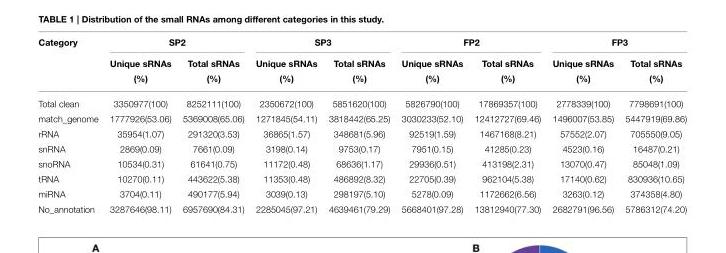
<table><thead><tr><td rowspan="2">Category</td><td colspan="2">SP2</td><td colspan="2">SP3</td><td colspan="2">FP2</td><td colspan="2">FP3</td></tr><tr><td>Unique sRNAs (%)</td><td>Total sRNAs (%)</td><td>Unique sRNAs (%)</td><td>Total sRNAs (%)</td><td>Unique sRNAs (%)</td><td>Total sRNAs (%)</td><td>Unique sRNAs (%)</td><td>Total sRNAs (%)</td></tr></thead><tbody><tr><td>Total clean</td><td>3350977(100)</td><td>8252111(100)</td><td>2350672(100)</td><td>5851620(100)</td><td>5826790(100)</td><td>17869357(100)</td><td>2778339(100)</td><td>7798691(100)</td></tr><tr><td>match_genome</td><td>1777926(53.06)</td><td>5369008(65.06)</td><td>1271845(54.11)</td><td>3818442(65.25)</td><td>3030233(52.10)</td><td>12412727(69.46)</td><td>1496007(53.85)</td><td>5447919(69.86)</td></tr><tr><td>rRNA</td><td>35954(1.07)</td><td>291320(3.53)</td><td>36865(1.57)</td><td>348681(5.96)</td><td>92519(1.59)</td><td>1467168(8.21)</td><td>57552(2.07)</td><td>705550(9.05)</td></tr><tr><td>snRNA</td><td>2869(0.09)</td><td>7661(0.09)</td><td>3198(0.14)</td><td>9753(0.17)</td><td>7951(0.15)</td><td>41285(0.23)</td><td>4523(0.16)</td><td>16487(0.21)</td></tr><tr><td>snoRNA</td><td>10534(0.31)</td><td>61641(0.75)</td><td>11172(0.48)</td><td>68636(1.17)</td><td>29936(0.51)</td><td>413198(2.31)</td><td>13070(0.47)</td><td>85048(1.09)</td></tr><tr><td>tRNA</td><td>10270(0.11)</td><td>443622(5.38)</td><td>11353(0.48)</td><td>486892(8.32)</td><td>22705(0.39)</td><td>962104(5.38)</td><td>17140(0.62)</td><td>830936(10.65)</td></tr><tr><td>miRNA</td><td>3704(0.11)</td><td>490177(5.94)</td><td>3039(0.13)</td><td>298197(5.10)</td><td>5278(0.09)</td><td>1172662(6.56)</td><td>3263(0.12)</td><td>374358(4.80)</td></tr><tr><td>No_annotation</td><td>3287646(98.11)</td><td>6957690(84.31)</td><td>2285045(97.21)</td><td>4639461(79.29)</td><td>5668401(97.28)</td><td>13812940(77.30)</td><td>2682791(96.56)</td><td>5786312(74.20)</td></tr></tbody></table>